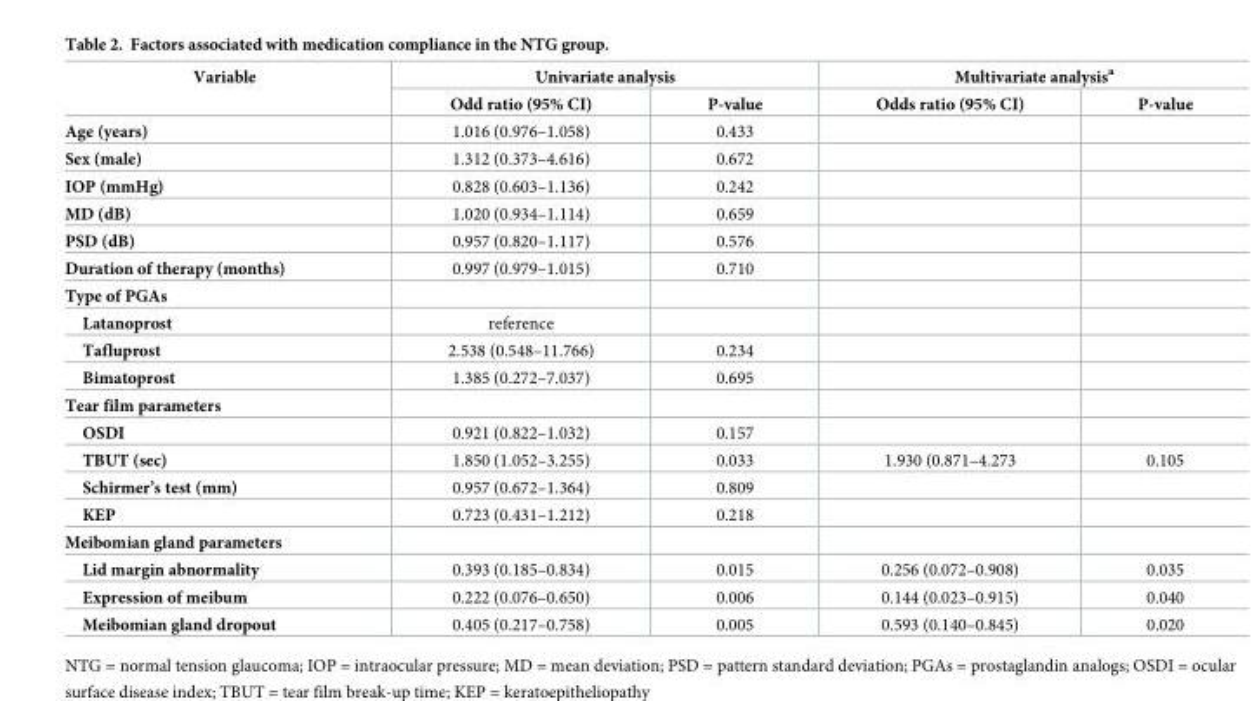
<table><thead><tr><td rowspan="2">Variable</td><td colspan="2">Univariate analysis</td><td colspan="2">Multivariate analysis<sup>a</sup></td></tr><tr><td>Odd ratio (95% CI)</td><td>P-value</td><td>Odds ratio (95% CI)</td><td>P-value</td></tr></thead><tbody><tr><td>Age (years)</td><td>1.016 (0.976–1.058)</td><td>0.433</td><td></td><td></td></tr><tr><td>Sex (male)</td><td>1.312 (0.373–4.616)</td><td>0.672</td><td></td><td></td></tr><tr><td>IOP (mmHg)</td><td>0.828 (0.603–1.136)</td><td>0.242</td><td></td><td></td></tr><tr><td>MD (dB)</td><td>1.020 (0.934–1.114)</td><td>0.659</td><td></td><td></td></tr><tr><td>PSD (dB)</td><td>0.957 (0.820–1.117)</td><td>0.576</td><td></td><td></td></tr><tr><td>Duration of therapy (months)</td><td>0.997 (0.979–1.015)</td><td>0.710</td><td></td><td></td></tr><tr><td colspan="5">Type of PGAs</td></tr><tr><td>Latanoprost</td><td>reference</td><td></td><td></td><td></td></tr><tr><td>Tafluprost</td><td>2.538 (0.548–11.766)</td><td>0.234</td><td></td><td></td></tr><tr><td>Bimatoprost</td><td>1.385 (0.272–7.037)</td><td>0.695</td><td></td><td></td></tr><tr><td colspan="5">Tear film parameters</td></tr><tr><td>OSDI</td><td>0.921 (0.822–1.032)</td><td>0.157</td><td></td><td></td></tr><tr><td>TBUT (sec)</td><td>1.850 (1.052–3.255)</td><td>0.033</td><td>1.930 (0.871–4.273</td><td>0.105</td></tr><tr><td>Schirmer’s test (mm)</td><td>0.957 (0.672–1.364)</td><td>0.809</td><td></td><td></td></tr><tr><td>KEP</td><td>0.723 (0.431–1.212)</td><td>0.218</td><td></td><td></td></tr><tr><td colspan="5">Meibomian gland parameters</td></tr><tr><td>Lid margin abnormality</td><td>0.393 (0.185–0.834)</td><td>0.015</td><td>0.256 (0.072–0.908)</td><td>0.035</td></tr><tr><td>Expression of meibum</td><td>0.222 (0.076–0.650)</td><td>0.006</td><td>0.144 (0.023–0.915)</td><td>0.040</td></tr><tr><td>Meibomian gland dropout</td><td>0.405 (0.217–0.758)</td><td>0.005</td><td>0.593 (0.140–0.845)</td><td>0.020</td></tr></tbody></table>